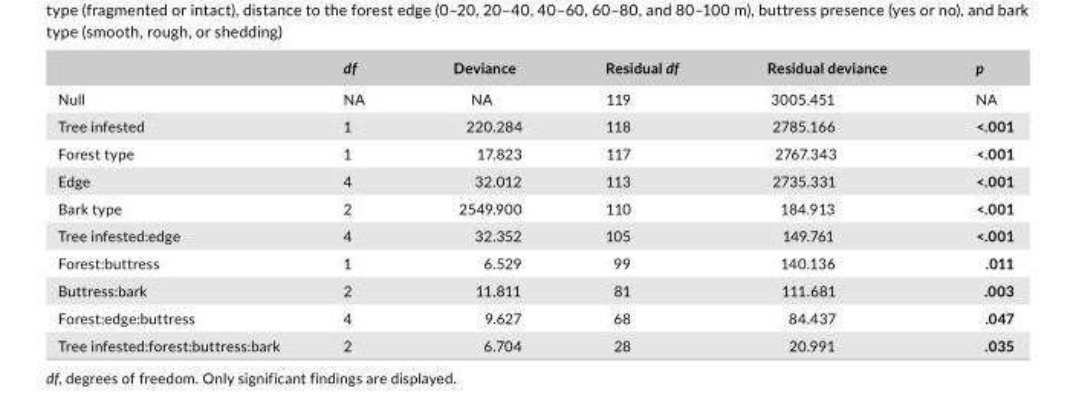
<table><thead><tr><td></td><td>df</td><td>Deviance</td><td>Residual df</td><td>Residual deviance</td><td>p</td></tr></thead><tbody><tr><td>Null</td><td>NA</td><td>NA</td><td>119</td><td>3005.451</td><td>NA</td></tr><tr><td>Tree infested</td><td>1</td><td>220.284</td><td>118</td><td>2785.166</td><td>&lt;.001</td></tr><tr><td>Forest type</td><td>1</td><td>17.823</td><td>117</td><td>2767.343</td><td>&lt;.001</td></tr><tr><td>Edge</td><td>4</td><td>32.012</td><td>113</td><td>2735.331</td><td>&lt;.001</td></tr><tr><td>Bark type</td><td>2</td><td>2549.900</td><td>110</td><td>184.913</td><td>&lt;.001</td></tr><tr><td>Tree infested:edge</td><td>4</td><td>32.352</td><td>105</td><td>149.761</td><td>&lt;.001</td></tr><tr><td>Forest:buttress</td><td>1</td><td>6.529</td><td>99</td><td>140.136</td><td>.011</td></tr><tr><td>Buttress:bark</td><td>2</td><td>11.811</td><td>81</td><td>111.681</td><td>.003</td></tr><tr><td>Forest:edge:buttress</td><td>4</td><td>9.627</td><td>68</td><td>84.437</td><td>.047</td></tr><tr><td>Tree infested:forest:buttress:bark</td><td>2</td><td>6.704</td><td>28</td><td>20.991</td><td>.035</td></tr></tbody></table>